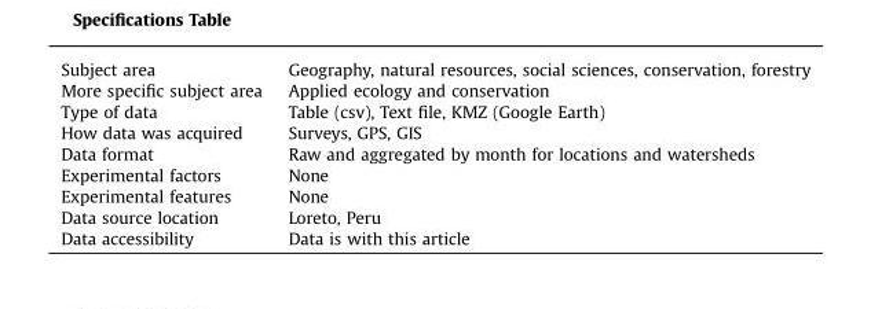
<table><tbody><tr><td>Subject area</td><td>Geography, natural resources, social sciences, conservation, forestry</td></tr><tr><td>More specific subject area</td><td>Applied ecology and conservation</td></tr><tr><td>Type of data</td><td>Table (csv), Text file, KMZ (Google Earth)</td></tr><tr><td>How data was acquired</td><td>Surveys, GPS, GIS</td></tr><tr><td>Data format</td><td>Raw and aggregated by month for locations and watersheds</td></tr><tr><td>Experimental factors</td><td>None</td></tr><tr><td>Experimental features</td><td>None</td></tr><tr><td>Data source location</td><td>Loreto, Peru</td></tr><tr><td>Data accessibility</td><td>Data is with this article</td></tr></tbody></table>